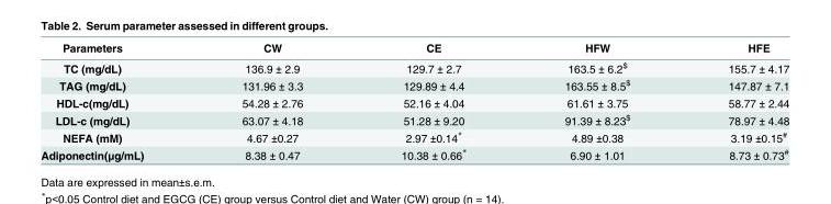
<table><thead><tr><td>Parameters</td><td>CW</td><td>CE</td><td>HFW</td><td>HFE</td></tr></thead><tbody><tr><td>TC (mg/dL)</td><td>136.9 ± 2.9</td><td>129.7 ± 2.7</td><td>163.5 ± 6.2<sup>$</sup></td><td>155.7 ± 4.17</td></tr><tr><td>TAG (mg/dL)</td><td>131.96 ± 3.3</td><td>129.89 ± 4.4</td><td>163.55 ± 8.5<sup>$</sup></td><td>147.87 ± 7.1</td></tr><tr><td>HDL-c(mg/dL)</td><td>54.28 ± 2.76</td><td>52.16 ± 4.04</td><td>61.61 ± 3.75</td><td>58.77 ± 2.44</td></tr><tr><td>LDL-c (mg/dL)</td><td>63.07 ± 4.18</td><td>51.28 ± 9.20</td><td>91.39 ± 8.23<sup>$</sup></td><td>78.97 ± 4.48</td></tr><tr><td>NEFA (mM)</td><td>4.67 ±0.27</td><td>2.97 ±0.14*</td><td>4.89 ±0.38</td><td>3.19 ±0.15<sup>#</sup></td></tr><tr><td>Adiponectin(μg/mL)</td><td>8.38 ± 0.47</td><td>10.38 ± 0.66*</td><td>6.90 ± 1.01</td><td>8.73 ± 0.73<sup>#</sup></td></tr></tbody></table>